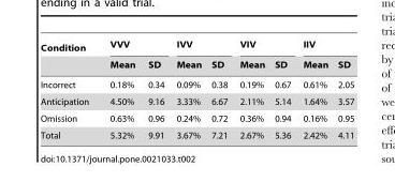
<table><thead><tr><td rowspan="2">Condition</td><td colspan="2">VVV</td><td colspan="2">IVV</td><td colspan="2">VIV</td><td colspan="2">IIV</td></tr><tr><td>Mean</td><td>SD</td><td>Mean</td><td>SD</td><td>Mean</td><td>SD</td><td>Mean</td><td>SD</td></tr></thead><tbody><tr><td>Incorrect</td><td>0.18%</td><td>0.34</td><td>0.09%</td><td>0.38</td><td>0.19%</td><td>0.67</td><td>0.61%</td><td>2.05</td></tr><tr><td>Anticipation</td><td>4.50%</td><td>9.16</td><td>3.33%</td><td>6.67</td><td>2.11%</td><td>5.14</td><td>1.64%</td><td>3.57</td></tr><tr><td>Omission</td><td>0.63%</td><td>0.96</td><td>0.24%</td><td>0.72</td><td>0.36%</td><td>0.94</td><td>0.16%</td><td>0.95</td></tr><tr><td>Total</td><td>5.32%</td><td>9.91</td><td>3.67%</td><td>7.21</td><td>2.67%</td><td>5.36</td><td>2.42%</td><td>4.11</td></tr></tbody></table>